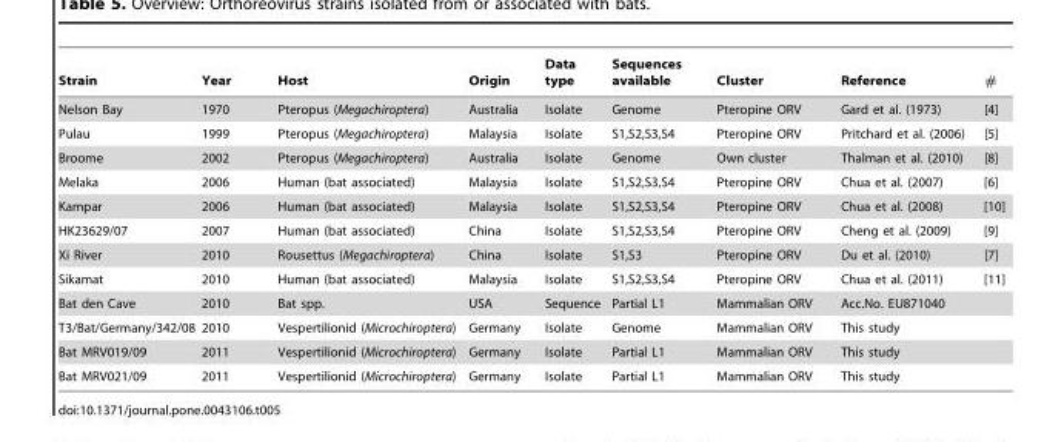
<table><thead><tr><td>Strain</td><td>Year</td><td>Host</td><td>Origin</td><td>Data type</td><td>Sequences available</td><td>Cluster</td><td>Reference</td><td>#</td></tr></thead><tbody><tr><td>Nelson Bay</td><td>1970</td><td>Pteropus (Megachiroptera)</td><td>Australia</td><td>Isolate</td><td>Genome</td><td>Pteropine ORV</td><td>Gard et al. (1973)</td><td>[4]</td></tr><tr><td>Pulau</td><td>1999</td><td>Pteropus (Megachiroptera)</td><td>Malaysia</td><td>Isolate</td><td>S1,S2,S3,S4</td><td>Pteropine ORV</td><td>Pritchard et al. (2006)</td><td>[5]</td></tr><tr><td>Broome</td><td>2002</td><td>Pteropus (Megachiroptera)</td><td>Australia</td><td>Isolate</td><td>Genome</td><td>Own cluster</td><td>Thalman et al. (2010)</td><td>[8]</td></tr><tr><td>Melaka</td><td>2006</td><td>Human (bat associated)</td><td>Malaysia</td><td>Isolate</td><td>S1,S2,S3,S4</td><td>Pteropine ORV</td><td>Chua et al. (2007)</td><td>[6]</td></tr><tr><td>Kampar</td><td>2006</td><td>Human (bat associated)</td><td>Malaysia</td><td>Isolate</td><td>S1,S2,S3,S4</td><td>Pteropine ORV</td><td>Chua et al. (2008)</td><td>[10]</td></tr><tr><td>HK23629/07</td><td>2007</td><td>Human (bat associated)</td><td>China</td><td>Isolate</td><td>S1,S2,S3,S4</td><td>Pteropine ORV</td><td>Cheng et al. (2009)</td><td>[9]</td></tr><tr><td>Xi River</td><td>2010</td><td>Rousettus (Megachiroptera)</td><td>China</td><td>Isolate</td><td>S1,S3</td><td>Pteropine ORV</td><td>Du et al. (2010)</td><td>[7]</td></tr><tr><td>Sikamat</td><td>2010</td><td>Human (bat associated)</td><td>Malaysia</td><td>Isolate</td><td>S1,S2,S3,S4</td><td>Pteropine ORV</td><td>Chua et al. (2011)</td><td>[11]</td></tr><tr><td>Bat den Cave</td><td>2010</td><td>Bat spp.</td><td>USA</td><td>Sequence</td><td>Partial L1</td><td>Mammalian ORV</td><td>Acc.No. EU871040</td><td></td></tr><tr><td>T3/Bat/Germany/342/08</td><td>2010</td><td>Vespertilionid (Microchiroptera)</td><td>Germany</td><td>Isolate</td><td>Genome</td><td>Mammalian ORV</td><td>This study</td><td></td></tr><tr><td>Bat MRV019/09</td><td>2011</td><td>Vespertilionid (Microchiroptera)</td><td>Germany</td><td>Isolate</td><td>Partial L1</td><td>Mammalian ORV</td><td>This study</td><td></td></tr><tr><td>Bat MRV021/09</td><td>2011</td><td>Vespertilionid (Microchiroptera)</td><td>Germany</td><td>Isolate</td><td>Partial L1</td><td>Mammalian ORV</td><td>This study</td><td></td></tr></tbody></table>